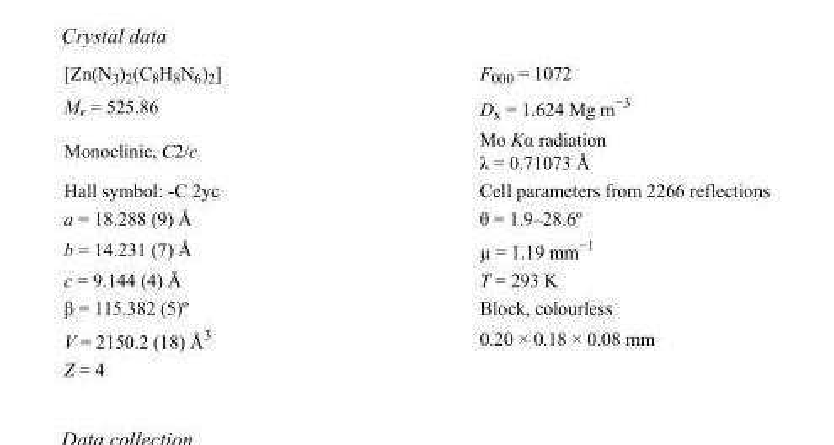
<table><tbody><tr><td>[Zn(N<sub>3</sub>)<sub>2</sub>(C<sub>8</sub>H<sub>8</sub>N<sub>6</sub>)<sub>2</sub>]</td><td>F000 = 1072</td></tr><tr><td>M<sub>r</sub> = 525.86</td><td>D<sub>x</sub> = 1.624 Mg m<sup>−3</sup></td></tr><tr><td>Monoclinic, C2/c</td><td>Mo Kα radiation λ = 0.71073 Å</td></tr><tr><td>Hall symbol: -C 2yc</td><td>Cell parameters from 2266 reflections</td></tr><tr><td>a = 18.288 (9) Å</td><td>θ = 1.9–28.6º</td></tr><tr><td>b = 14.231 (7) Å</td><td>µ = 1.19 mm<sup>−1</sup></td></tr><tr><td>c = 9.144 (4) Å</td><td>T = 293 K</td></tr><tr><td>β = 115.382 (5)º</td><td>Block, colourless</td></tr><tr><td>V = 2150.2 (18) Å<sup>3</sup></td><td>0.20 × 0.18 × 0.08 mm</td></tr><tr><td>Z = 4</td><td></td></tr></tbody></table>